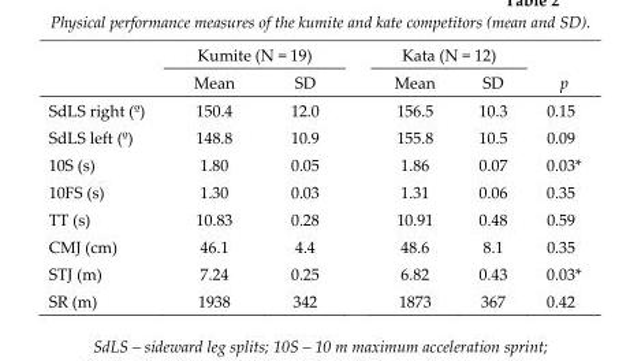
<table><thead><tr><td rowspan="2"></td><td colspan="2">Kumite (N = 19)</td><td colspan="2">Kata (N = 12)</td><td rowspan="2">p</td></tr><tr><td>Mean</td><td>SD</td><td>Mean</td><td>SD</td></tr></thead><tbody><tr><td>SdLS right (º)</td><td>150.4</td><td>12.0</td><td>156.5</td><td>10.3</td><td>0.15*</td></tr><tr><td>SdLS left (º)</td><td>148.8</td><td>10.9</td><td>155.8</td><td>10.5</td><td>0.09*</td></tr><tr><td>10S (s)</td><td>1.80</td><td>0.05</td><td>1.86</td><td>0.07</td><td>0.03*</td></tr><tr><td>10FS (s)</td><td>1.30</td><td>0.03</td><td>1.31</td><td>0.06</td><td>0.35*</td></tr><tr><td>TT (s)</td><td>10.83</td><td>0.28</td><td>10.91</td><td>0.48</td><td>0.59*</td></tr><tr><td>CMJ (cm)</td><td>46.1</td><td>4.4</td><td>48.6</td><td>8.1</td><td>0.35*</td></tr><tr><td>STJ (m)</td><td>7.24</td><td>0.25</td><td>6.82</td><td>0.43</td><td>0.03*</td></tr><tr><td>SR (m)</td><td>1938</td><td>342</td><td>1873</td><td>367</td><td>0.42*</td></tr></tbody></table>